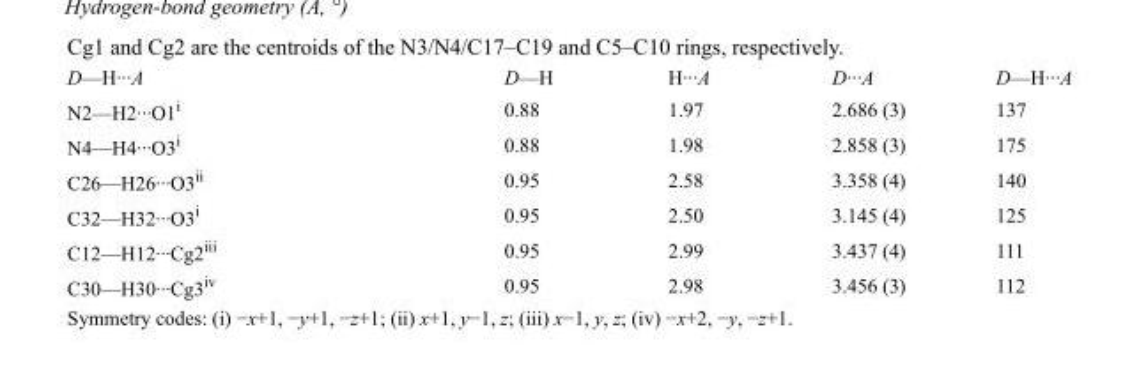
<table><tbody><tr><td>D—H···A</td><td>D—H</td><td>H···A</td><td>D···A</td><td>D—H···A</td></tr><tr><td>N2—H2···O1<sup>i</sup></td><td>0.88</td><td>1.97</td><td>2.686 (3)</td><td>137</td></tr><tr><td>N4—H4···O3<sup>i</sup></td><td>0.88</td><td>1.98</td><td>2.858 (3)</td><td>175</td></tr><tr><td>C26—H26···O3<sup>ii</sup></td><td>0.95</td><td>2.58</td><td>3.358 (4)</td><td>140</td></tr><tr><td>C32—H32···O3<sup>i</sup></td><td>0.95</td><td>2.50</td><td>3.145 (4)</td><td>125</td></tr><tr><td>C12—H12···Cg2<sup>iii</sup></td><td>0.95</td><td>2.99</td><td>3.437 (4)</td><td>111</td></tr><tr><td>C30—H30···Cg3<sup>iv</sup></td><td>0.95</td><td>2.98</td><td>3.456 (3)</td><td>112</td></tr></tbody></table>